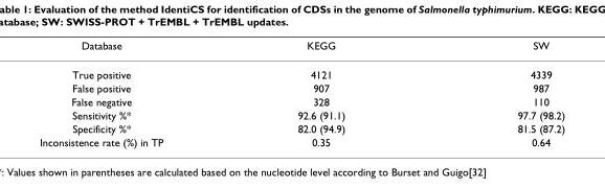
<table><thead><tr><td>Database</td><td>KEGG</td><td>SW</td></tr></thead><tbody><tr><td>True positive</td><td>4121</td><td>4339</td></tr><tr><td>False positive</td><td>907</td><td>987</td></tr><tr><td>False negative</td><td>328</td><td>110</td></tr><tr><td>Sensitivity %*</td><td>92.6 (91.1)</td><td>97.7 (98.2)</td></tr><tr><td>Specificity %*</td><td>82.0 (94.9)</td><td>81.5 (87.2)</td></tr><tr><td>Inconsistence rate (%) in TP</td><td>0.35</td><td>0.64</td></tr></tbody></table>